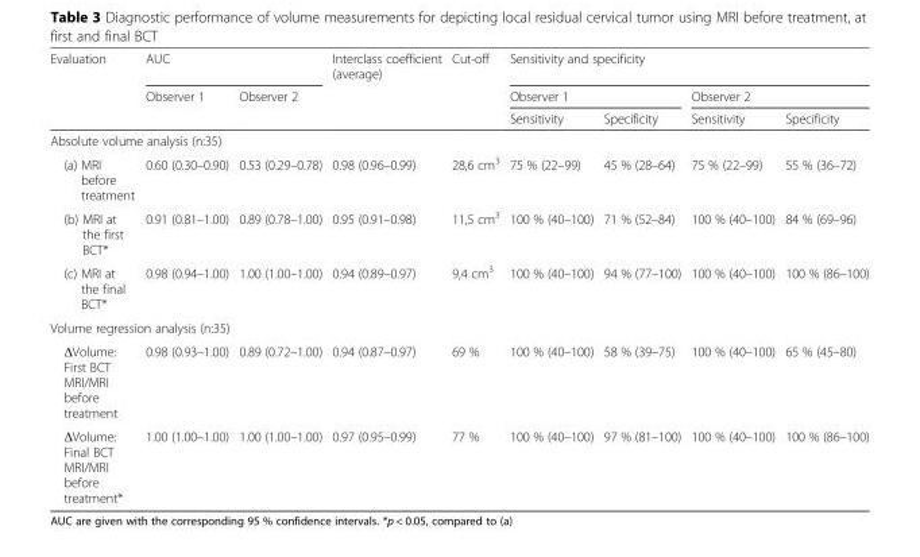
<table><thead><tr><td rowspan="3">Evaluation</td><td colspan="2">AUC</td><td rowspan="3">Interclass coefficient (average)</td><td rowspan="3">Cut-off</td><td colspan="4">Sensitivity and specificity</td></tr><tr><td rowspan="2">Observer 1</td><td rowspan="2">Observer 2</td><td colspan="2">Observer 1</td><td colspan="2">Observer 2</td></tr><tr><td>Sensitivity</td><td>Specificity</td><td>Sensitivity</td><td>Specificity</td></tr></thead><tbody><tr><td colspan="9">Absolute volume analysis (n:35)</td></tr><tr><td>(a) MRI before treatment</td><td>0.60 (0.30–0.90)</td><td>0.53 (0.29–0.78)</td><td>0.98 (0.96–0.99)</td><td>28,6 cm<sup>3</sup></td><td>75 % (22–99)</td><td>45 % (28–64)</td><td>75 % (22–99)</td><td>55 % (36–72)</td></tr><tr><td>(b) MRI at the first BCT*</td><td>0.91 (0.81–1.00)</td><td>0.89 (0.78–1.00)</td><td>0.95 (0.91–0.98)</td><td>11,5 cm<sup>3</sup></td><td>100 % (40–100)</td><td>71 % (52–84)</td><td>100 % (40–100)</td><td>84 % (69–96)</td></tr><tr><td>(c) MRI at the final BCT*</td><td>0.98 (0.94–1.00)</td><td>1.00 (1.00–1.00)</td><td>0.94 (0.89–0.97)</td><td>9,4 cm<sup>3</sup></td><td>100 % (40–100)</td><td>94 % (77–100)</td><td>100 % (40–100)</td><td>100 % (86–100)</td></tr><tr><td colspan="9">Volume regression analysis (n:35)</td></tr><tr><td>ΔVolume: First BCT MRI/MRI before treatment</td><td>0.98 (0.93–1.00)</td><td>0.89 (0.72–1.00)</td><td>0.94 (0.87–0.97)</td><td>69 %</td><td>100 % (40–100)</td><td>58 % (39–75)</td><td>100 % (40–100)</td><td>65 % (45–80)</td></tr><tr><td>ΔVolume: Final BCT MRI/MRI before treatment*</td><td>1.00 (1.00–1.00)</td><td>1.00 (1.00–1.00)</td><td>0.97 (0.95–0.99)</td><td>77 %</td><td>100 % (40–100)</td><td>97 % (81–100)</td><td>100 % (40–100)</td><td>100 % (86–100)</td></tr></tbody></table>